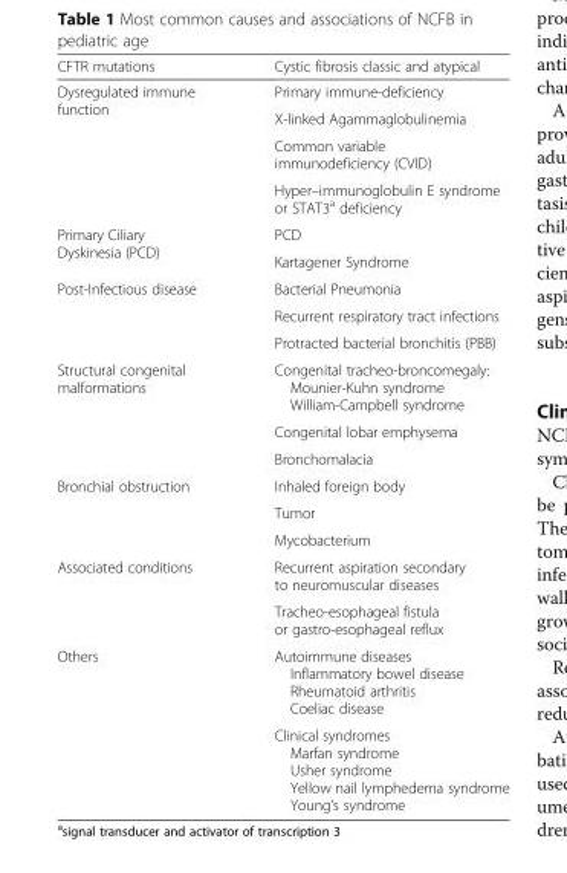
<table><thead><tr><td>CFTR mutations</td><td>Cystic fibrosis classic and atypical</td></tr></thead><tbody><tr><td rowspan="4">Dysregulated immune function</td><td>Primary immune-deficiency</td></tr><tr><td>X-linked Agammaglobulinemia</td></tr><tr><td>Common variable immunodeficiency (CVID)</td></tr><tr><td>Hyper–immunoglobulin E syndrome or STAT3<sup>a</sup> deficiency</td></tr><tr><td rowspan="2">Primary Ciliary Dyskinesia (PCD)</td><td>PCD</td></tr><tr><td>Kartagener Syndrome</td></tr><tr><td rowspan="3">Post-Infectious disease</td><td>Bacterial Pneumonia</td></tr><tr><td>Recurrent respiratory tract infections</td></tr><tr><td>Protracted bacterial bronchitis (PBB)</td></tr><tr><td rowspan="3">Structural congenital malformations</td><td>Congenital tracheo-broncomegaly: Mounier-Kuhn syndrome William-Campbell syndrome</td></tr><tr><td>Congenital lobar emphysema</td></tr><tr><td>Bronchomalacia</td></tr><tr><td rowspan="3">Bronchial obstruction</td><td>Inhaled foreign body</td></tr><tr><td>Tumor</td></tr><tr><td>Mycobacterium</td></tr><tr><td rowspan="2">Associated conditions</td><td>Recurrent aspiration secondary to neuromuscular diseases</td></tr><tr><td>Tracheo-esophageal fistula or gastro-esophageal reflux</td></tr><tr><td rowspan="2">Others</td><td>Autoimmune diseases Inflammatory bowel disease Rheumatoid arthritis Coeliac disease</td></tr><tr><td>Clinical syndromes Marfan syndrome Usher syndrome Yellow nail lymphedema syndrome Young’s syndrome</td></tr></tbody></table>